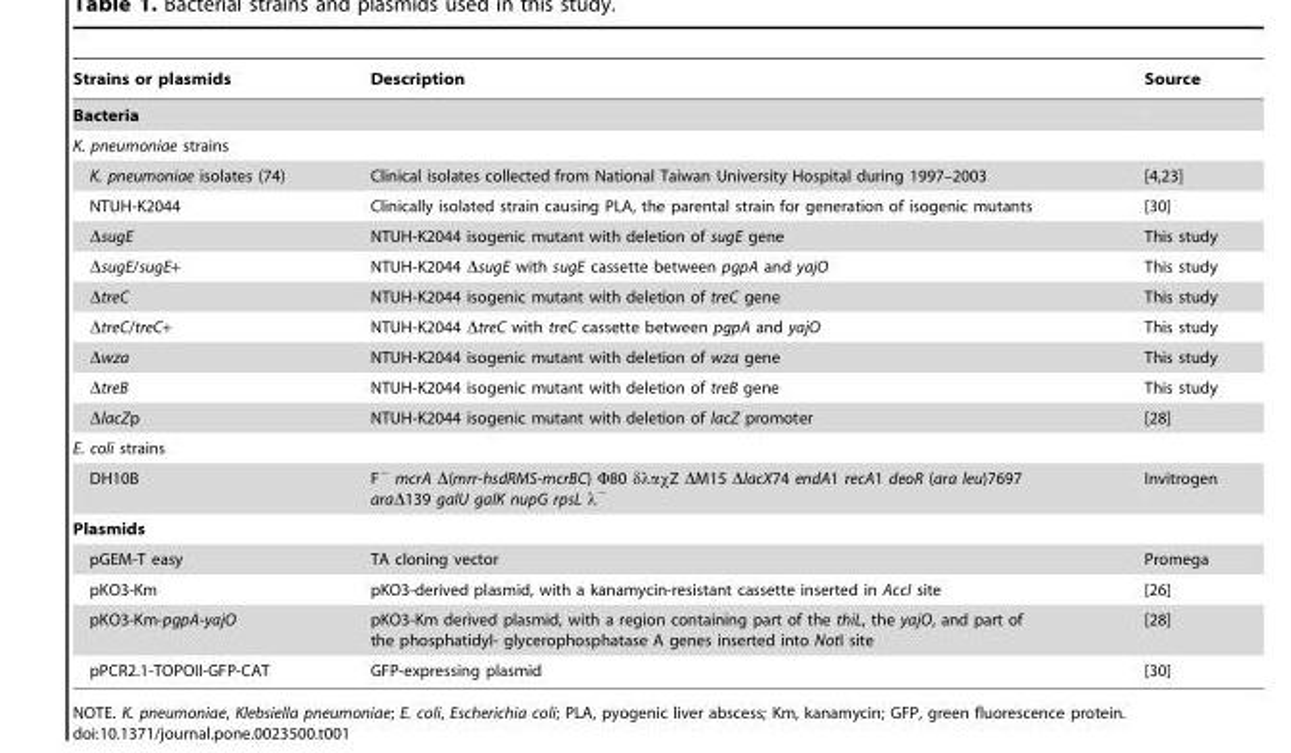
<table><thead><tr><td>Strains or plasmids</td><td>Description</td><td>Source</td></tr></thead><tbody><tr><td colspan="3">Bacteria</td></tr><tr><td colspan="3">K. pneumoniae strains</td></tr><tr><td>K. pneumoniae isolates (74)</td><td>Clinical isolates collected from National Taiwan University Hospital during 1997–2003</td><td>[4,23]</td></tr><tr><td>NTUH-K2044</td><td>Clinically isolated strain causing PLA, the parental strain for generation of isogenic mutants</td><td>[30]</td></tr><tr><td>ΔsugE</td><td>NTUH-K2044 isogenic mutant with deletion of sugE gene</td><td>This study</td></tr><tr><td>ΔsugE/sugE+</td><td>NTUH-K2044 ΔsugE with sugE cassette between pgpA and yajO</td><td>This study</td></tr><tr><td>ΔtreC</td><td>NTUH-K2044 isogenic mutant with deletion of treC gene</td><td>This study</td></tr><tr><td>ΔtreC/treC+</td><td>NTUH-K2044 ΔtreC with treC cassette between pgpA and yajO</td><td>This study</td></tr><tr><td>Δwza</td><td>NTUH-K2044 isogenic mutant with deletion of wza gene</td><td>This study</td></tr><tr><td>ΔtreB</td><td>NTUH-K2044 isogenic mutant with deletion of treB gene</td><td>This study</td></tr><tr><td>ΔlacZp</td><td>NTUH-K2044 isogenic mutant with deletion of lacZ promoter</td><td>[28]</td></tr><tr><td colspan="3">E. coli strains</td></tr><tr><td>DH10B</td><td>F<sup>−</sup> mcrA Δ(mrr-hsdRMS-mcrBC) Φ80 δλαχZ ΔM15 ΔlacX74 endA1 recA1 deoR (ara leu)7697 araΔ139 galU galK nupG rpsL λ<sup>−</sup></td><td>Invitrogen</td></tr><tr><td colspan="3">Plasmids</td></tr><tr><td>pGEM-T easy</td><td>TA cloning vector</td><td>Promega</td></tr><tr><td>pKO3-Km</td><td>pKO3-derived plasmid, with a kanamycin-resistant cassette inserted in AccI site</td><td>[26]</td></tr><tr><td>pKO3-Km-pgpA-yajO</td><td>pKO3-Km derived plasmid, with a region containing part of the thiL, the yajO, and part of the phosphatidyl- glycerophosphatase A genes inserted into NotI site</td><td>[28]</td></tr><tr><td>pPCR2.1-TOPOII-GFP-CAT</td><td>GFP-expressing plasmid</td><td>[30]</td></tr></tbody></table>